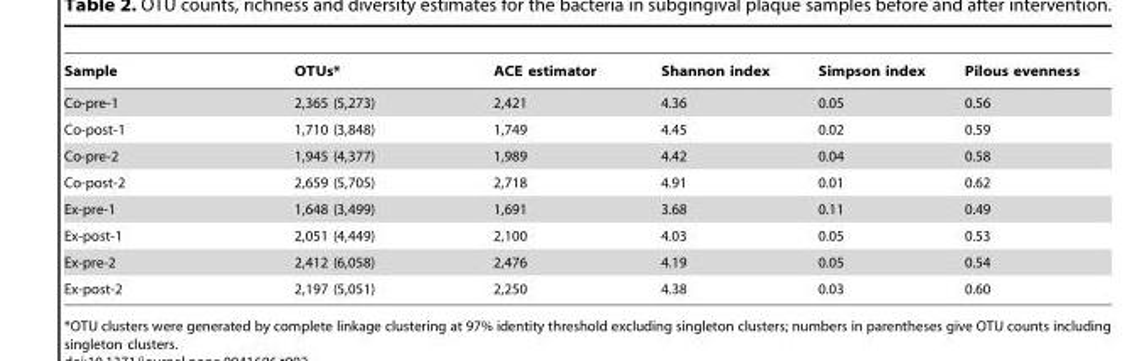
<table><thead><tr><td>Sample</td><td>OTUs*</td><td>ACE estimator</td><td>Shannon index</td><td>Simpson index</td><td>Pilous evenness</td></tr></thead><tbody><tr><td>Co-pre-1</td><td>2,365 (5,273)</td><td>2,421</td><td>4.36</td><td>0.05</td><td>0.56</td></tr><tr><td>Co-post-1</td><td>1,710 (3,848)</td><td>1,749</td><td>4.45</td><td>0.02</td><td>0.59</td></tr><tr><td>Co-pre-2</td><td>1,945 (4,377)</td><td>1,989</td><td>4.42</td><td>0.04</td><td>0.58</td></tr><tr><td>Co-post-2</td><td>2,659 (5,705)</td><td>2,718</td><td>4.91</td><td>0.01</td><td>0.62</td></tr><tr><td>Ex-pre-1</td><td>1,648 (3,499)</td><td>1,691</td><td>3.68</td><td>0.11</td><td>0.49</td></tr><tr><td>Ex-post-1</td><td>2,051 (4,449)</td><td>2,100</td><td>4.03</td><td>0.05</td><td>0.53</td></tr><tr><td>Ex-pre-2</td><td>2,412 (6,058)</td><td>2,476</td><td>4.19</td><td>0.05</td><td>0.54</td></tr><tr><td>Ex-post-2</td><td>2,197 (5,051)</td><td>2,250</td><td>4.38</td><td>0.03</td><td>0.60</td></tr></tbody></table>